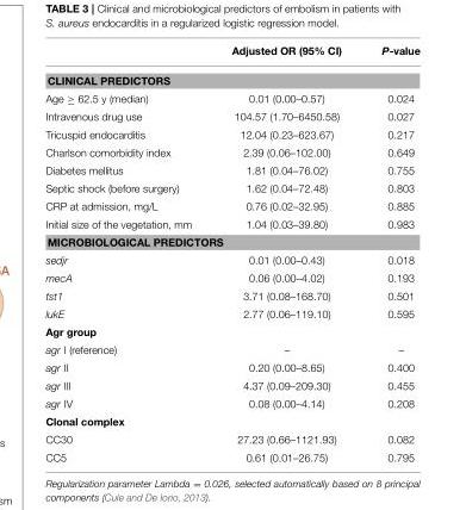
<table><thead><tr><td></td><td>Adjusted OR (95% CI)</td><td>P-value</td></tr></thead><tbody><tr><td colspan="3">CLINICAL PREDICTORS</td></tr><tr><td>Age ≥ 62.5 y (median)</td><td>0.01 (0.00–0.57)</td><td>0.024</td></tr><tr><td>Intravenous drug use</td><td>104.57 (1.70–6450.58)</td><td>0.027</td></tr><tr><td>Tricuspid endocarditis</td><td>12.04 (0.23–623.67)</td><td>0.217</td></tr><tr><td>Charlson comorbidity index</td><td>2.39 (0.06–102.00)</td><td>0.649</td></tr><tr><td>Diabetes mellitus</td><td>1.81 (0.04–76.02)</td><td>0.755</td></tr><tr><td>Septic shock (before surgery)</td><td>1.62 (0.04–72.48)</td><td>0.803</td></tr><tr><td>CRP at admission, mg/L</td><td>0.76 (0.02–32.95)</td><td>0.885</td></tr><tr><td>Initial size of the vegetation, mm</td><td>1.04 (0.03–39.80)</td><td>0.983</td></tr><tr><td colspan="3">MICROBIOLOGICAL PREDICTORS</td></tr><tr><td>sedjr</td><td>0.01 (0.00–0.43)</td><td>0.018</td></tr><tr><td>mecA</td><td>0.06 (0.00–4.02)</td><td>0.193</td></tr><tr><td>tst1</td><td>3.71 (0.08–168.70)</td><td>0.501</td></tr><tr><td>lukE</td><td>2.77 (0.06–119.10)</td><td>0.595</td></tr><tr><td colspan="3">Agr group</td></tr><tr><td>agr I (reference)</td><td>–</td><td>–</td></tr><tr><td>agr II</td><td>0.20 (0.00–8.65)</td><td>0.400</td></tr><tr><td>agr III</td><td>4.37 (0.09–209.30)</td><td>0.455</td></tr><tr><td>agr IV</td><td>0.08 (0.00–4.14)</td><td>0.208</td></tr><tr><td colspan="3">Clonal complex</td></tr><tr><td>CC30</td><td>27.23 (0.66–1121.93)</td><td>0.082</td></tr><tr><td>CC5</td><td>0.61 (0.01–26.75)</td><td>0.795</td></tr></tbody></table>